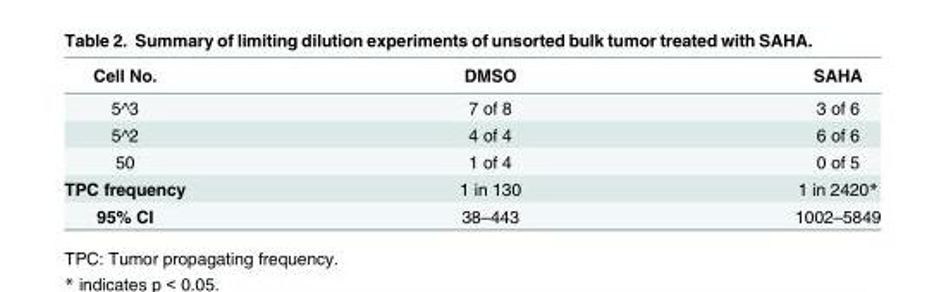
<table><thead><tr><td>Cell No.</td><td>DMSO</td><td>SAHA</td></tr></thead><tbody><tr><td>5^3</td><td>7 of 8</td><td>3 of 6</td></tr><tr><td>5^2</td><td>4 of 4</td><td>6 of 6</td></tr><tr><td>50</td><td>1 of 4</td><td>0 of 5</td></tr><tr><td>TPC frequency</td><td>1 in 130</td><td>1 in 2420*</td></tr><tr><td>95% CI</td><td>38–443</td><td>1002–5849</td></tr></tbody></table>